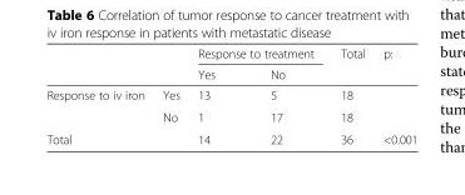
<table><thead><tr><td rowspan="2"></td><td rowspan="2"></td><td colspan="2">Response to treatment</td><td rowspan="2">Total</td><td rowspan="2">p:</td></tr><tr><td>Yes</td><td>No</td></tr></thead><tbody><tr><td rowspan="2">Response to iv iron</td><td>Yes</td><td>13</td><td>5</td><td>18</td><td></td></tr><tr><td>No</td><td>1</td><td>17</td><td>18</td><td></td></tr><tr><td colspan="2">Total</td><td>14</td><td>22</td><td>36</td><td>&lt;0.001</td></tr></tbody></table>